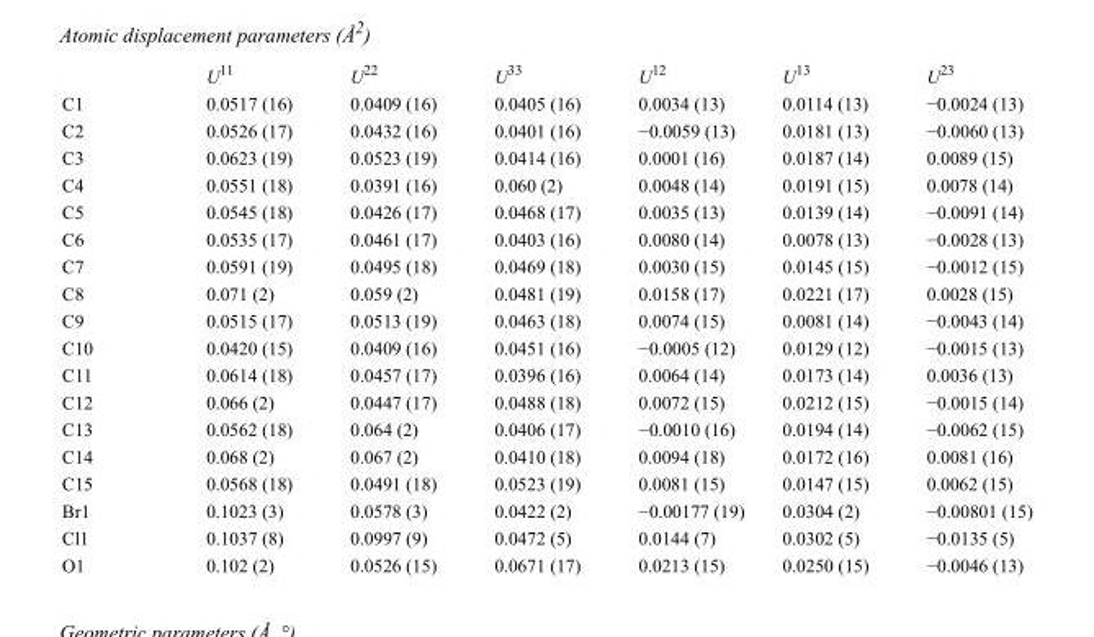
<table><thead><tr><td></td><td>U<sup>11</sup></td><td>U<sup>22</sup></td><td>U<sup>33</sup></td><td>U<sup>12</sup></td><td>U<sup>13</sup></td><td>U<sup>23</sup></td></tr></thead><tbody><tr><td>C1</td><td>0.0517 (16)</td><td>0.0409 (16)</td><td>0.0405 (16)</td><td>0.0034 (13)</td><td>0.0114 (13)</td><td>−0.0024 (13)</td></tr><tr><td>C2</td><td>0.0526 (17)</td><td>0.0432 (16)</td><td>0.0401 (16)</td><td>−0.0059 (13)</td><td>0.0181 (13)</td><td>−0.0060 (13)</td></tr><tr><td>C3</td><td>0.0623 (19)</td><td>0.0523 (19)</td><td>0.0414 (16)</td><td>0.0001 (16)</td><td>0.0187 (14)</td><td>0.0089 (15)</td></tr><tr><td>C4</td><td>0.0551 (18)</td><td>0.0391 (16)</td><td>0.060 (2)</td><td>0.0048 (14)</td><td>0.0191 (15)</td><td>0.0078 (14)</td></tr><tr><td>C5</td><td>0.0545 (18)</td><td>0.0426 (17)</td><td>0.0468 (17)</td><td>0.0035 (13)</td><td>0.0139 (14)</td><td>−0.0091 (14)</td></tr><tr><td>C6</td><td>0.0535 (17)</td><td>0.0461 (17)</td><td>0.0403 (16)</td><td>0.0080 (14)</td><td>0.0078 (13)</td><td>−0.0028 (13)</td></tr><tr><td>C7</td><td>0.0591 (19)</td><td>0.0495 (18)</td><td>0.0469 (18)</td><td>0.0030 (15)</td><td>0.0145 (15)</td><td>−0.0012 (15)</td></tr><tr><td>C8</td><td>0.071 (2)</td><td>0.059 (2)</td><td>0.0481 (19)</td><td>0.0158 (17)</td><td>0.0221 (17)</td><td>0.0028 (15)</td></tr><tr><td>C9</td><td>0.0515 (17)</td><td>0.0513 (19)</td><td>0.0463 (18)</td><td>0.0074 (15)</td><td>0.0081 (14)</td><td>−0.0043 (14)</td></tr><tr><td>C10</td><td>0.0420 (15)</td><td>0.0409 (16)</td><td>0.0451 (16)</td><td>−0.0005 (12)</td><td>0.0129 (12)</td><td>−0.0015 (13)</td></tr><tr><td>C11</td><td>0.0614 (18)</td><td>0.0457 (17)</td><td>0.0396 (16)</td><td>0.0064 (14)</td><td>0.0173 (14)</td><td>0.0036 (13)</td></tr><tr><td>C12</td><td>0.066 (2)</td><td>0.0447 (17)</td><td>0.0488 (18)</td><td>0.0072 (15)</td><td>0.0212 (15)</td><td>−0.0015 (14)</td></tr><tr><td>C13</td><td>0.0562 (18)</td><td>0.064 (2)</td><td>0.0406 (17)</td><td>−0.0010 (16)</td><td>0.0194 (14)</td><td>−0.0062 (15)</td></tr><tr><td>C14</td><td>0.068 (2)</td><td>0.067 (2)</td><td>0.0410 (18)</td><td>0.0094 (18)</td><td>0.0172 (16)</td><td>0.0081 (16)</td></tr><tr><td>C15</td><td>0.0568 (18)</td><td>0.0491 (18)</td><td>0.0523 (19)</td><td>0.0081 (15)</td><td>0.0147 (15)</td><td>0.0062 (15)</td></tr><tr><td>Br1</td><td>0.1023 (3)</td><td>0.0578 (3)</td><td>0.0422 (2)</td><td>−0.00177 (19)</td><td>0.0304 (2)</td><td>−0.00801 (15)</td></tr><tr><td>Cl1</td><td>0.1037 (8)</td><td>0.0997 (9)</td><td>0.0472 (5)</td><td>0.0144 (7)</td><td>0.0302 (5)</td><td>−0.0135 (5)</td></tr><tr><td>O1</td><td>0.102 (2)</td><td>0.0526 (15)</td><td>0.0671 (17)</td><td>0.0213 (15)</td><td>0.0250 (15)</td><td>−0.0046 (13)</td></tr></tbody></table>